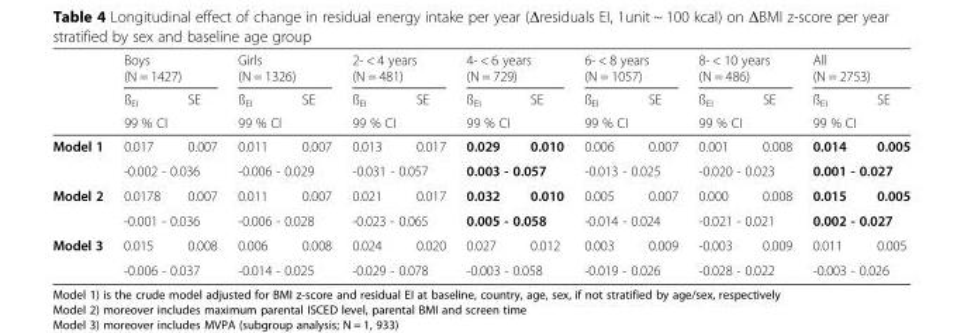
<table><thead><tr><td rowspan="4"></td><td rowspan="2" colspan="2">Boys (N = 1427)</td><td rowspan="2" colspan="2">Girls (N = 1326)</td><td rowspan="2" colspan="2">2- &lt; 4 years (N = 481)</td><td rowspan="2" colspan="2">4- &lt; 6 years (N = 729)</td><td rowspan="2" colspan="2">6- &lt; 8 years (N = 1057)</td><td rowspan="2" colspan="2">8- &lt; 10 years (N = 486)</td><td rowspan="2" colspan="2">All (N = 2753)</td></tr><tr></tr><tr><td rowspan="2">ß<sub>EI</sub> 99 % CI</td><td rowspan="2">SE</td><td rowspan="2">ß<sub>EI</sub> 99 % CI</td><td rowspan="2">SE</td><td rowspan="2">ß<sub>EI</sub> 99 % CI</td><td rowspan="2">SE</td><td rowspan="2">ß<sub>EI</sub> 99 % CI</td><td rowspan="2">SE</td><td rowspan="2">ß<sub>EI</sub> 99 % CI</td><td rowspan="2">SE</td><td rowspan="2">ß<sub>EI</sub> 99 % CI</td><td rowspan="2">SE</td><td rowspan="2">ß<sub>EI</sub> 99 % CI</td><td rowspan="2">SE</td></tr><tr></tr></thead><tbody><tr><td rowspan="2">Model 1</td><td>0.017</td><td>0.007</td><td>0.011</td><td>0.007</td><td>0.013</td><td>0.017</td><td>0.029</td><td>0.010</td><td>0.006</td><td>0.007</td><td>0.001</td><td>0.008</td><td>0.014</td><td>0.005</td></tr><tr><td colspan="2">-0.002 - 0.036</td><td colspan="2">-0.006 - 0.029</td><td colspan="2">-0.031 - 0.057</td><td colspan="2">0.003 - 0.057</td><td colspan="2">-0.013 - 0.025</td><td colspan="2">-0.020 - 0.023</td><td colspan="2">0.001 - 0.027</td></tr><tr><td rowspan="2">Model 2</td><td>0.0178</td><td>0.007</td><td>0.011</td><td>0.007</td><td>0.021</td><td>0.017</td><td>0.032</td><td>0.010</td><td>0.005</td><td>0.007</td><td>0.000</td><td>0.008</td><td>0.015</td><td>0.005</td></tr><tr><td colspan="2">-0.001 - 0.036</td><td colspan="2">-0.006 - 0.028</td><td colspan="2">-0.023 - 0.065</td><td colspan="2">0.005 - 0.058</td><td colspan="2">-0.014 - 0.024</td><td colspan="2">-0.021 - 0.021</td><td colspan="2">0.002 - 0.027</td></tr><tr><td rowspan="2">Model 3</td><td>0.015</td><td>0.008</td><td>0.006</td><td>0.008</td><td>0.024</td><td>0.020</td><td>0.027</td><td>0.012</td><td>0.003</td><td>0.009</td><td>-0.003</td><td>0.009</td><td>0.011</td><td>0.005</td></tr><tr><td colspan="2">-0.006 - 0.037</td><td colspan="2">-0.014 - 0.025</td><td colspan="2">-0.029 - 0.078</td><td colspan="2">-0.003 - 0.058</td><td colspan="2">-0.019 - 0.026</td><td colspan="2">-0.028 - 0.022</td><td colspan="2">-0.003 - 0.026</td></tr></tbody></table>